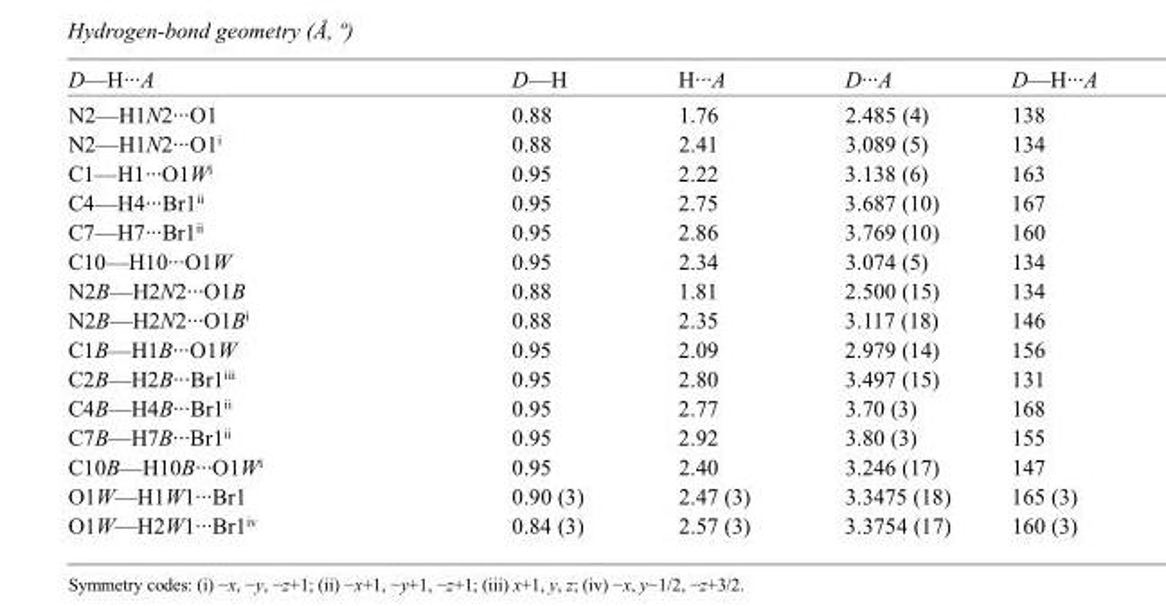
<table><tbody><tr><td>D—H···A</td><td>D—H</td><td>H···A</td><td>D···A</td><td>D—H···A</td></tr><tr><td>N2—H1N2···O1</td><td>0.88</td><td>1.76</td><td>2.485 (4)</td><td>138</td></tr><tr><td>N2—H1N2···O1<sup>i</sup></td><td>0.88</td><td>2.41</td><td>3.089 (5)</td><td>134</td></tr><tr><td>C1—H1···O1W<sup>i</sup></td><td>0.95</td><td>2.22</td><td>3.138 (6)</td><td>163</td></tr><tr><td>C4—H4···Br1<sup>ii</sup></td><td>0.95</td><td>2.75</td><td>3.687 (10)</td><td>167</td></tr><tr><td>C7—H7···Br1<sup>ii</sup></td><td>0.95</td><td>2.86</td><td>3.769 (10)</td><td>160</td></tr><tr><td>C10—H10···O1W</td><td>0.95</td><td>2.34</td><td>3.074 (5)</td><td>134</td></tr><tr><td>N2B—H2N2···O1B</td><td>0.88</td><td>1.81</td><td>2.500 (15)</td><td>134</td></tr><tr><td>N2B—H2N2···O1B<sup>i</sup></td><td>0.88</td><td>2.35</td><td>3.117 (18)</td><td>146</td></tr><tr><td>C1B—H1B···O1W</td><td>0.95</td><td>2.09</td><td>2.979 (14)</td><td>156</td></tr><tr><td>C2B—H2B···Br1<sup>iii</sup></td><td>0.95</td><td>2.80</td><td>3.497 (15)</td><td>131</td></tr><tr><td>C4B—H4B···Br1<sup>ii</sup></td><td>0.95</td><td>2.77</td><td>3.70 (3)</td><td>168</td></tr><tr><td>C7B—H7B···Br1<sup>ii</sup></td><td>0.95</td><td>2.92</td><td>3.80 (3)</td><td>155</td></tr><tr><td>C10B—H10B···O1W<sup>i</sup></td><td>0.95</td><td>2.40</td><td>3.246 (17)</td><td>147</td></tr><tr><td>O1W—H1W1···Br1</td><td>0.90 (3)</td><td>2.47 (3)</td><td>3.3475 (18)</td><td>165 (3)</td></tr><tr><td>O1W—H2W1···Br1<sup>iv</sup></td><td>0.84 (3)</td><td>2.57 (3)</td><td>3.3754 (17)</td><td>160 (3)</td></tr></tbody></table>